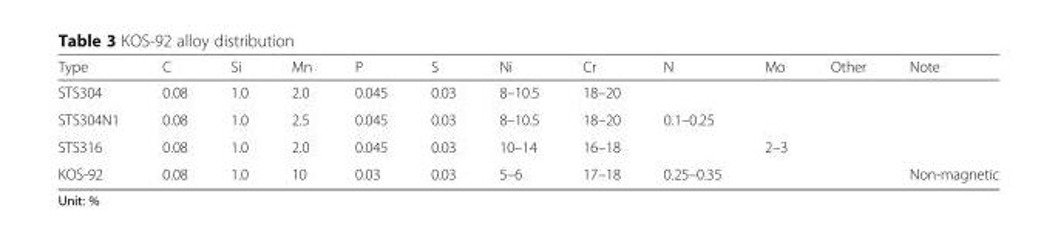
<table><thead><tr><td>Type</td><td>C</td><td>Si</td><td>Mn</td><td>P</td><td>S</td><td>Ni</td><td>Cr</td><td>N</td><td>Mo</td><td>Other</td><td>Note</td></tr></thead><tbody><tr><td>STS304</td><td>0.08</td><td>1.0</td><td>2.0</td><td>0.045</td><td>0.03</td><td>8–10.5</td><td>18–20</td><td></td><td></td><td></td><td></td></tr><tr><td>STS304N1</td><td>0.08</td><td>1.0</td><td>2.5</td><td>0.045</td><td>0.03</td><td>8–10.5</td><td>18–20</td><td>0.1–0.25</td><td></td><td></td><td></td></tr><tr><td>STS316</td><td>0.08</td><td>1.0</td><td>2.0</td><td>0.045</td><td>0.03</td><td>10–14</td><td>16–18</td><td></td><td>2–3</td><td></td><td></td></tr><tr><td>KOS-92</td><td>0.08</td><td>1.0</td><td>10</td><td>0.03</td><td>0.03</td><td>5–6</td><td>17–18</td><td>0.25–0.35</td><td></td><td></td><td>Non-magnetic</td></tr></tbody></table>